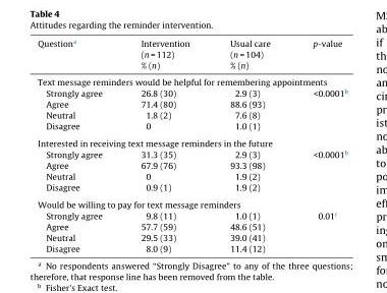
<table><thead><tr><td>Question<sup>a</sup></td><td>Intervention (n = 112) % (n)</td><td>Usual care (n = 104) % (n)</td><td>p-value</td></tr></thead><tbody><tr><td colspan="4">Text message reminders would be helpful for remembering appointments</td></tr><tr><td>Strongly agree</td><td>26.8 (30)</td><td>2.9 (3)</td><td>&lt;0.0001<sup>b</sup></td></tr><tr><td>Agree</td><td>71.4 (80)</td><td>88.6 (93)</td><td></td></tr><tr><td>Neutral</td><td>1.8 (2)</td><td>7.6 (8)</td><td></td></tr><tr><td>Disagree</td><td>0</td><td>1.0 (1)</td><td></td></tr><tr><td colspan="4">Interested in receiving text message reminders in the future</td></tr><tr><td>Strongly agree</td><td>31.3 (35)</td><td>2.9 (3)</td><td>&lt;0.0001<sup>b</sup></td></tr><tr><td>Agree</td><td>67.9 (76)</td><td>93.3 (98)</td><td></td></tr><tr><td>Neutral</td><td>0</td><td>1.9 (2)</td><td></td></tr><tr><td>Disagree</td><td>0.9 (1)</td><td>1.9 (2)</td><td></td></tr><tr><td colspan="4">Would be willing to pay for text message reminders</td></tr><tr><td>Strongly agree</td><td>9.8 (11)</td><td>1.0 (1)</td><td>0.01<sup>c</sup></td></tr><tr><td>Agree</td><td>57.7 (59)</td><td>48.6 (51)</td><td></td></tr><tr><td>Neutral</td><td>29.5 (33)</td><td>39.0 (41)</td><td></td></tr><tr><td>Disagree</td><td>8.0 (9)</td><td>11.4 (12)</td><td></td></tr></tbody></table>